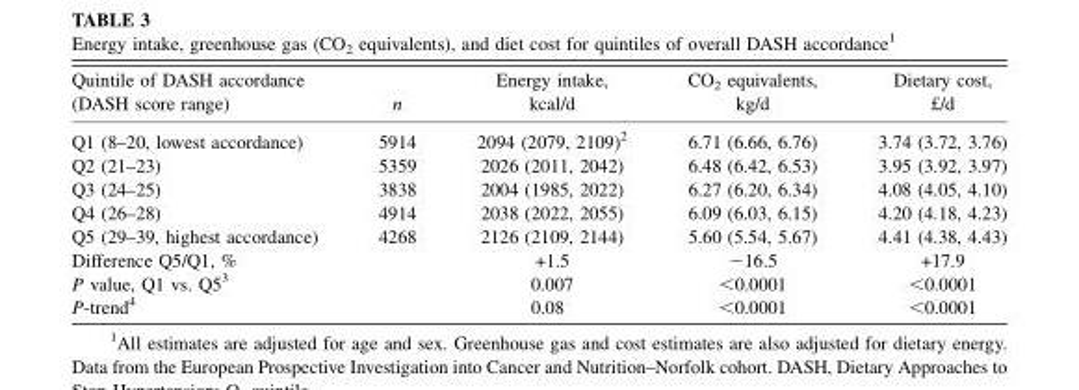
<table><thead><tr><td>Quintile of DASH accordance (DASH score range)</td><td>n</td><td>Energy intake, kcal/d</td><td>CO<sub>2</sub> equivalents, kg/d</td><td>Dietary cost, £/d</td></tr></thead><tbody><tr><td>Q1 (8–20, lowest accordance)</td><td>5914</td><td>2094 (2079, 2109)<sup>2</sup></td><td>6.71 (6.66, 6.76)</td><td>3.74 (3.72, 3.76)</td></tr><tr><td>Q2 (21–23)</td><td>5359</td><td>2026 (2011, 2042)</td><td>6.48 (6.42, 6.53)</td><td>3.95 (3.92, 3.97)</td></tr><tr><td>Q3 (24–25)</td><td>3838</td><td>2004 (1985, 2022)</td><td>6.27 (6.20, 6.34)</td><td>4.08 (4.05, 4.10)</td></tr><tr><td>Q4 (26–28)</td><td>4914</td><td>2038 (2022, 2055)</td><td>6.09 (6.03, 6.15)</td><td>4.20 (4.18, 4.23)</td></tr><tr><td>Q5 (29–39, highest accordance)</td><td>4268</td><td>2126 (2109, 2144)</td><td>5.60 (5.54, 5.67)</td><td>4.41 (4.38, 4.43)</td></tr><tr><td>Difference Q5/Q1, %</td><td></td><td>+1.5</td><td>−16.5</td><td>+17.9</td></tr><tr><td>P value, Q1 vs. Q5<sup>3</sup></td><td></td><td>0.007</td><td>&lt;0.0001</td><td>&lt;0.0001</td></tr><tr><td>P-trend<sup>4</sup></td><td></td><td>0.08</td><td>&lt;0.0001</td><td>&lt;0.0001</td></tr></tbody></table>